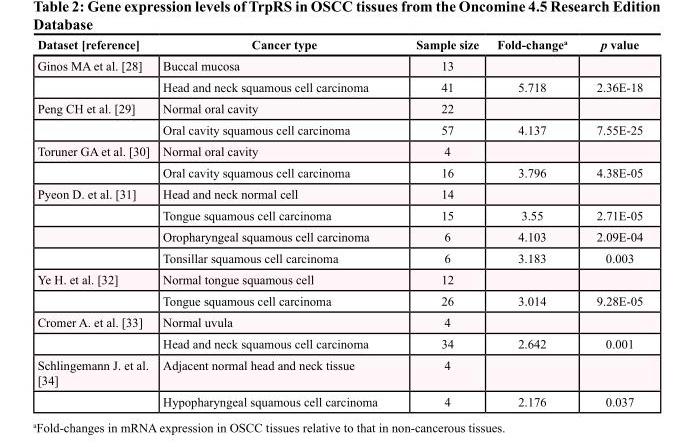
<table><thead><tr><td>Dataset [reference]</td><td>Cancer type</td><td>Sample size</td><td>Fold-change<sup>a</sup></td><td>p value</td></tr></thead><tbody><tr><td rowspan="2">Ginos MA et al. [28]</td><td>Buccal mucosa</td><td>13</td><td></td><td></td></tr><tr><td>Head and neck squamous cell carcinoma</td><td>41</td><td>5.718</td><td>2.36E-18</td></tr><tr><td rowspan="2">Peng CH et al. [29]</td><td>Normal oral cavity</td><td>22</td><td></td><td></td></tr><tr><td>Oral cavity squamous cell carcinoma</td><td>57</td><td>4.137</td><td>7.55E-25</td></tr><tr><td rowspan="2">Toruner GA et al. [30]</td><td>Normal oral cavity</td><td>4</td><td></td><td></td></tr><tr><td>Oral cavity squamous cell carcinoma</td><td>16</td><td>3.796</td><td>4.38E-05</td></tr><tr><td rowspan="4">Pyeon D. et al. [31]</td><td>Head and neck normal cell</td><td>14</td><td></td><td></td></tr><tr><td>Tongue squamous cell carcinoma</td><td>15</td><td>3.55</td><td>2.71E-05</td></tr><tr><td>Oropharyngeal squamous cell carcinoma</td><td>6</td><td>4.103</td><td>2.09E-04</td></tr><tr><td>Tonsillar squamous cell carcinoma</td><td>6</td><td>3.183</td><td>0.003</td></tr><tr><td rowspan="2">Ye H. et al. [32]</td><td>Normal tongue squamous cell</td><td>12</td><td></td><td></td></tr><tr><td>Tongue squamous cell carcinoma</td><td>26</td><td>3.014</td><td>9.28E-05</td></tr><tr><td rowspan="2">Cromer A. et al. [33]</td><td>Normal uvula</td><td>4</td><td></td><td></td></tr><tr><td>Head and neck squamous cell carcinoma</td><td>34</td><td>2.642</td><td>0.001</td></tr><tr><td rowspan="2">Schlingemann J. et al. [34]</td><td>Adjacent normal head and neck tissue</td><td>4</td><td></td><td></td></tr><tr><td>Hypopharyngeal squamous cell carcinoma</td><td>4</td><td>2.176</td><td>0.037</td></tr></tbody></table>